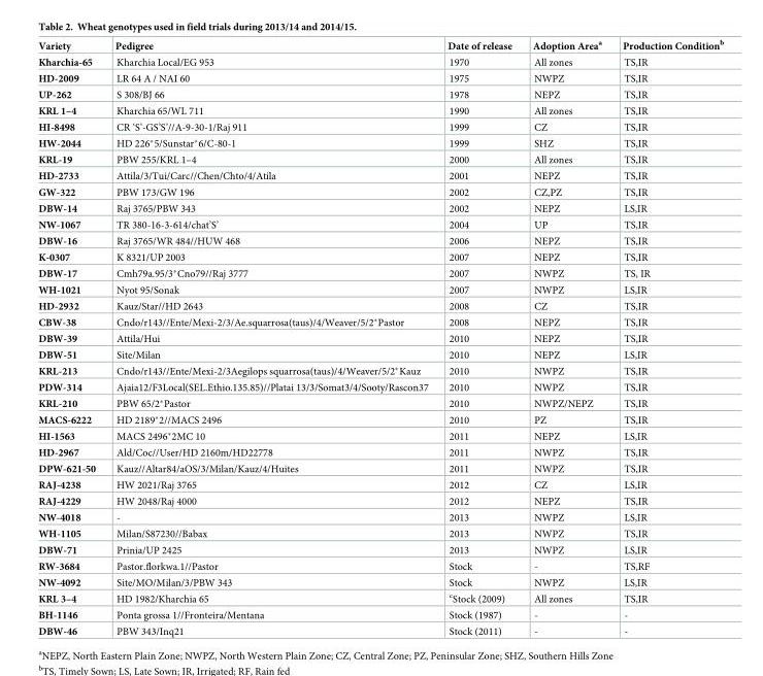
<table><thead><tr><td>Variety</td><td>Pedigree</td><td>Date of release</td><td>Adoption Area<sup>a</sup></td><td>Production Condition<sup>b</sup></td></tr></thead><tbody><tr><td>Kharchia-65</td><td>Kharchia Local/EG 953</td><td>1970</td><td>All zones</td><td>TS,IR</td></tr><tr><td>HD-2009</td><td>LR 64 A / NAI 60</td><td>1975</td><td>NWPZ</td><td>TS,IR</td></tr><tr><td>UP-262</td><td>S 308/BJ 66</td><td>1978</td><td>NEPZ</td><td>TS,IR</td></tr><tr><td>KRL 1–4</td><td>Kharchia 65/WL 711</td><td>1990</td><td>All zones</td><td>TS,IR</td></tr><tr><td>HI-8498</td><td>CR ‘S’-GS’S’//A-9-30-1/Raj 911</td><td>1999</td><td>CZ</td><td>TS,IR</td></tr><tr><td>HW-2044</td><td>HD 226*5/Sunstar*6/C-80-1</td><td>1999</td><td>SHZ</td><td>TS,IR</td></tr><tr><td>KRL-19</td><td>PBW 255/KRL 1–4</td><td>2000</td><td>All zones</td><td>TS,IR</td></tr><tr><td>HD-2733</td><td>Attila/3/Tui/Carc//Chen/Chto/4/Atila</td><td>2001</td><td>NEPZ</td><td>TS,IR</td></tr><tr><td>GW-322</td><td>PBW 173/GW 196</td><td>2002</td><td>CZ,PZ</td><td>TS,IR</td></tr><tr><td>DBW-14</td><td>Raj 3765/PBW 343</td><td>2002</td><td>NEPZ</td><td>LS,IR</td></tr><tr><td>NW-1067</td><td>TR 380-16-3-614/chat’S’</td><td>2004</td><td>UP</td><td>TS,IR</td></tr><tr><td>DBW-16</td><td>Raj 3765/WR 484//HUW 468</td><td>2006</td><td>NEPZ</td><td>TS,IR</td></tr><tr><td>K-0307</td><td>K 8321/UP 2003</td><td>2007</td><td>NEPZ</td><td>TS,IR</td></tr><tr><td>DBW-17</td><td>Cmh79a.95/3*Cno79//Raj 3777</td><td>2007</td><td>NWPZ</td><td>TS, IR</td></tr><tr><td>WH-1021</td><td>Nyot 95/Sonak</td><td>2007</td><td>NWPZ</td><td>LS,IR</td></tr><tr><td>HD-2932</td><td>Kauz/Star//HD 2643</td><td>2008</td><td>CZ</td><td>TS,IR</td></tr><tr><td>CBW-38</td><td>Cndo/r143//Ente/Mexi-2/3/Ae.squarrosa(taus)/4/Weaver/5/2*Pastor</td><td>2008</td><td>NEPZ</td><td>TS,IR</td></tr><tr><td>DBW-39</td><td>Attila/Hui</td><td>2010</td><td>NEPZ</td><td>TS,IR</td></tr><tr><td>DBW-51</td><td>Site/Milan</td><td>2010</td><td>NEPZ</td><td>LS,IR</td></tr><tr><td>KRL-213</td><td>Cndo/r143//Ente/Mexi-2/3Aegilops squarrosa(taus)/4/Weaver/5/2*Kauz</td><td>2010</td><td>NWPZ</td><td>TS,IR</td></tr><tr><td>PDW-314</td><td>Ajaia12/F3Local(SEL.Ethio.135.85)//Platai 13/3/Somat3/4/Sooty/Rascon37</td><td>2010</td><td>NWPZ</td><td>TS,IR</td></tr><tr><td>KRL-210</td><td>PBW 65/2*Pastor</td><td>2010</td><td>NWPZ/NEPZ</td><td>TS,IR</td></tr><tr><td>MACS-6222</td><td>HD 2189*2//MACS 2496</td><td>2010</td><td>PZ</td><td>TS,IR</td></tr><tr><td>HI-1563</td><td>MACS 2496*2MC 10</td><td>2011</td><td>NEPZ</td><td>LS,IR</td></tr><tr><td>HD-2967</td><td>Ald/Coc//User/HD 2160m/HD22778</td><td>2011</td><td>NWPZ</td><td>TS,IR</td></tr><tr><td>DPW-621-50</td><td>Kauz//Altar84/aOS/3/Milan/Kauz/4/Huites</td><td>2011</td><td>NWPZ</td><td>TS,IR</td></tr><tr><td>RAJ-4238</td><td>HW 2021/Raj 3765</td><td>2012</td><td>CZ</td><td>LS,IR</td></tr><tr><td>RAJ-4229</td><td>HW 2048/Raj 4000</td><td>2012</td><td>NEPZ</td><td>TS,IR</td></tr><tr><td>NW-4018</td><td>-</td><td>2013</td><td>NWPZ</td><td>LS,IR</td></tr><tr><td>WH-1105</td><td>Milan/S87230//Babax</td><td>2013</td><td>NWPZ</td><td>TS,IR</td></tr><tr><td>DBW-71</td><td>Prinia/UP 2425</td><td>2013</td><td>NWPZ</td><td>LS,IR</td></tr><tr><td>RW-3684</td><td>Pastor.florkwa.1//Pastor</td><td>Stock</td><td>-</td><td>TS,RF</td></tr><tr><td>NW-4092</td><td>Site/MO/Milan/3/PBW 343</td><td>Stock</td><td>NWPZ</td><td>LS,IR</td></tr><tr><td>KRL 3–4</td><td>HD 1982/Kharchia 65</td><td><sup>c</sup>Stock (2009)</td><td>All zones</td><td>TS,IR</td></tr><tr><td>BH-1146</td><td>Ponta grossa 1//Fronteira/Mentana</td><td>Stock (1987)</td><td>-</td><td>-</td></tr><tr><td>DBW-46</td><td>PBW 343/Inq21</td><td>Stock (2011)</td><td>-</td><td>-</td></tr></tbody></table>